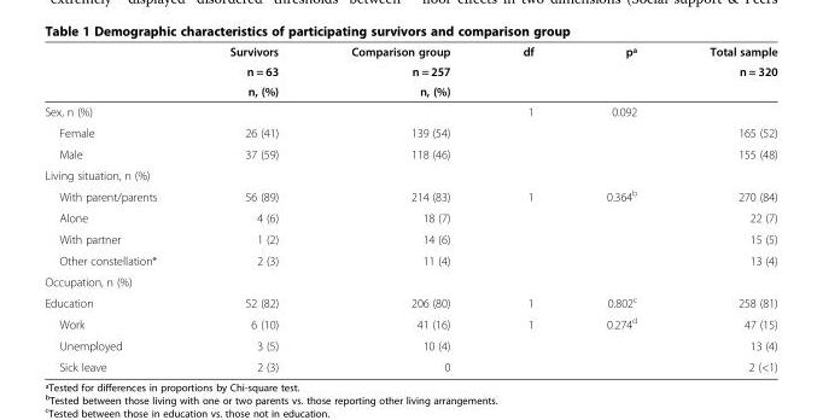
<table><thead><tr><td rowspan="3"></td><td rowspan="3">Survivors n = 63 n, (%)</td><td rowspan="3">Comparison group n = 257 n, (%)</td><td rowspan="3">df</td><td rowspan="3">pª</td><td rowspan="3">Total sample n = 320</td></tr><tr></tr><tr></tr></thead><tbody><tr><td>Sex, n (%)</td><td></td><td></td><td>1</td><td>0.092</td><td></td></tr><tr><td>Female</td><td>26 (41)</td><td>139 (54)</td><td></td><td></td><td>165 (52)</td></tr><tr><td>Male</td><td>37 (59)</td><td>118 (46)</td><td></td><td></td><td>155 (48)</td></tr><tr><td colspan="6">Living situation, n (%)</td></tr><tr><td>With parent/parents</td><td>56 (89)</td><td>214 (83)</td><td>1</td><td>0.364<sup>b</sup></td><td>270 (84)</td></tr><tr><td>Alone</td><td>4 (6)</td><td>18 (7)</td><td></td><td></td><td>22 (7)</td></tr><tr><td>With partner</td><td>1 (2)</td><td>14 (6)</td><td></td><td></td><td>15 (5)</td></tr><tr><td>Other constellation*</td><td>2 (3)</td><td>11 (4)</td><td></td><td></td><td>13 (4)</td></tr><tr><td colspan="6">Occupation, n (%)</td></tr><tr><td>Education</td><td>52 (82)</td><td>206 (80)</td><td>1</td><td>0.802<sup>c</sup></td><td>258 (81)</td></tr><tr><td>Work</td><td>6 (10)</td><td>41 (16)</td><td>1</td><td>0.274<sup>d</sup></td><td>47 (15)</td></tr><tr><td>Unemployed</td><td>3 (5)</td><td>10 (4)</td><td></td><td></td><td>13 (4)</td></tr><tr><td>Sick leave</td><td>2 (3)</td><td>0</td><td></td><td></td><td>2 (&lt;1)</td></tr></tbody></table>